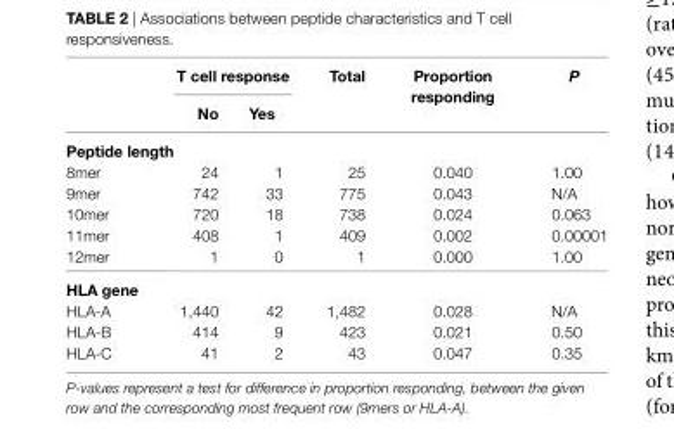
<table><thead><tr><td rowspan="2"></td><td colspan="2">T cell response</td><td rowspan="2">Total</td><td rowspan="2">Proportion responding</td><td rowspan="2">P</td></tr><tr><td>no</td><td>Yes</td></tr></thead><tbody><tr><td colspan="6">Peptide length</td></tr><tr><td>8mer</td><td>24</td><td>1</td><td>25</td><td>0.040</td><td>1.00</td></tr><tr><td>9mer</td><td>742</td><td>33</td><td>775</td><td>0.043</td><td>N/A</td></tr><tr><td>10mer</td><td>720</td><td>18</td><td>738</td><td>0.024</td><td>0.063</td></tr><tr><td>11mer</td><td>408</td><td>1</td><td>409</td><td>0.002</td><td>0.00001</td></tr><tr><td>12mer</td><td>1</td><td>0</td><td>1</td><td>0.000</td><td>1.00</td></tr><tr><td colspan="6">hla gene</td></tr><tr><td>HLA-A</td><td>1,440</td><td>42</td><td>1,482</td><td>0.028</td><td>N/A</td></tr><tr><td>HLA-B</td><td>414</td><td>9</td><td>423</td><td>0.021</td><td>0.50</td></tr><tr><td>HLA-C</td><td>41</td><td>2</td><td>43</td><td>0.047</td><td>0.35</td></tr></tbody></table>